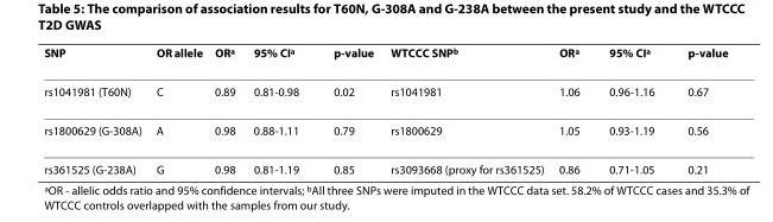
<table><thead><tr><td>SNP</td><td>OR allele</td><td>OR<sup>a</sup></td><td>95% CI<sup>a</sup></td><td>p-value</td><td>WTCCC SNP<sup>b</sup></td><td>OR<sup>a</sup></td><td>95% CI<sup>a</sup></td><td>p-value</td></tr></thead><tbody><tr><td>rs1041981 (T60N)</td><td>C</td><td>0.89</td><td>0.81-0.98</td><td>0.02</td><td>rs1041981</td><td>1.06</td><td>0.96-1.16</td><td>0.67</td></tr><tr><td>rs1800629 (G-308A)</td><td>A</td><td>0.98</td><td>0.88-1.11</td><td>0.79</td><td>rs1800629</td><td>1.05</td><td>0.93-1.19</td><td>0.56</td></tr><tr><td>rs361525 (G-238A)</td><td>G</td><td>0.98</td><td>0.81-1.19</td><td>0.85</td><td>rs3093668 (proxy for rs361525)</td><td>0.86</td><td>0.71-1.05</td><td>0.21</td></tr></tbody></table>